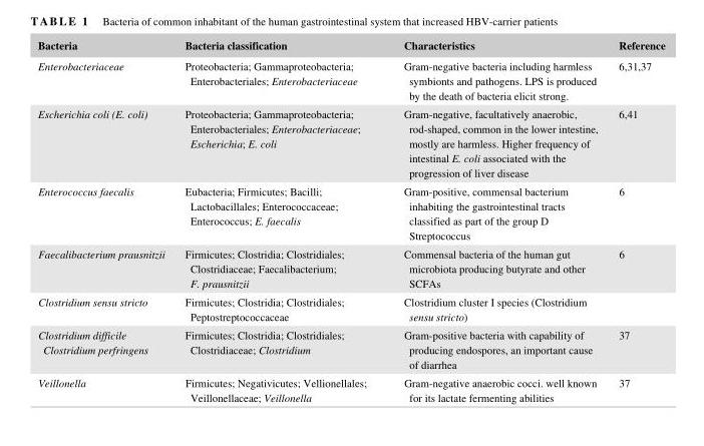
<table><thead><tr><td>Bacteria</td><td>Bacteria classification</td><td>Characteristics</td><td>Reference</td></tr></thead><tbody><tr><td>Enterobacteriaceae</td><td>Proteobacteria; Gammaproteobacteria; Enterobacteriales; Enterobacteriaceae</td><td>Gram- negative bacteria including harmless symbionts and pathogens. LPS is produced by the death of bacteria elicit strong.</td><td>6,31,37</td></tr><tr><td>Escherichia coli (E. coli)</td><td>Proteobacteria; Gammaproteobacteria; Enterobacteriales; Enterobacteriaceae; Escherichia; E. coli</td><td>Gram- negative, facultatively anaerobic, rod- shaped, common in the lower intestine, mostly are harmless. Higher frequency of intestinal E. coli associated with the progression of liver disease</td><td>6,41</td></tr><tr><td>Enterococcus faecalis</td><td>Eubacteria; Firmicutes; Bacilli; Lactobacillales; Enterococcaceae; Enterococcus; E. faecalis</td><td>Gram- positive, commensal bacterium inhabiting the gastrointestinal tracts classified as part of the group D Streptococcus</td><td>6</td></tr><tr><td>Faecalibacterium prausnitzii</td><td>Firmicutes; Clostridia; Clostridiales; Clostridiaceae; Faecalibacterium; F. prausnitzii</td><td>Commensal bacteria of the human gut microbiota producing butyrate and other SCFAs</td><td>6</td></tr><tr><td>Clostridium sensu stricto</td><td>Firmicutes; Clostridia; Clostridiales; Peptostreptococcaceae</td><td>Clostridium cluster I species (Clostridium sensu stricto)</td><td></td></tr><tr><td>Clostridium difficile Clostridium perfringens</td><td>Firmicutes; Clostridia; Clostridiales; Clostridiaceae; Clostridium</td><td>Gram- positive bacteria with capability of producing endospores, an important cause of diarrhea</td><td>37</td></tr><tr><td>Veillonella</td><td>Firmicutes; Negativicutes; Vellionellales; Veillonellaceae; Veillonella</td><td>Gram- negative anaerobic cocci. well known for its lactate fermenting abilities</td><td>37</td></tr></tbody></table>